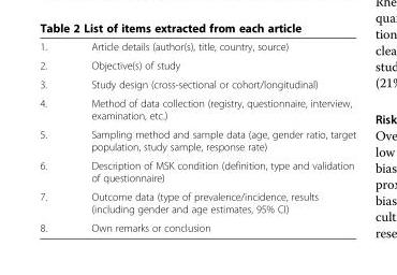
<table><tbody><tr><td>1.</td><td>Article details (author(s), title, country, source)</td></tr><tr><td>2.</td><td>Objective(s) of study</td></tr><tr><td>3.</td><td>Study design (cross-sectional or cohort/longitudinal)</td></tr><tr><td>4.</td><td>Method of data collection (registry, questionnaire, interview, examination, etc.)</td></tr><tr><td>5.</td><td>Sampling method and sample data (age, gender ratio, target population, study sample, response rate)</td></tr><tr><td>6.</td><td>Description of MSK condition (definition, type and validation of questionnaire)</td></tr><tr><td>7.</td><td>Outcome data (type of prevalence/incidence, results (including gender and age estimates, 95% CI)</td></tr><tr><td>8.</td><td>Own remarks or conclusion</td></tr></tbody></table>